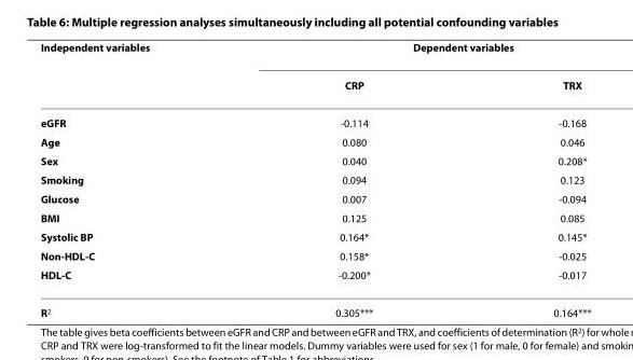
<table><thead><tr><td rowspan="2">Independent variables</td><td colspan="2">Dependent variables</td></tr><tr><td>CRP</td><td>TRX</td></tr></thead><tbody><tr><td>eGFR</td><td>-0.114</td><td>-0.168</td></tr><tr><td>Age</td><td>0.080</td><td>0.046</td></tr><tr><td>Sex</td><td>0.040</td><td>0.208*</td></tr><tr><td>Smoking</td><td>0.094</td><td>0.123</td></tr><tr><td>Glucose</td><td>0.007</td><td>-0.094</td></tr><tr><td>BMI</td><td>0.125</td><td>0.085</td></tr><tr><td>Systolic BP</td><td>0.164*</td><td>0.145*</td></tr><tr><td>Non-HDL-C</td><td>0.158*</td><td>-0.025</td></tr><tr><td>HDL-C</td><td>-0.200*</td><td>-0.017</td></tr><tr><td>R<sup>2</sup></td><td>0.305***</td><td>0.164***</td></tr></tbody></table>